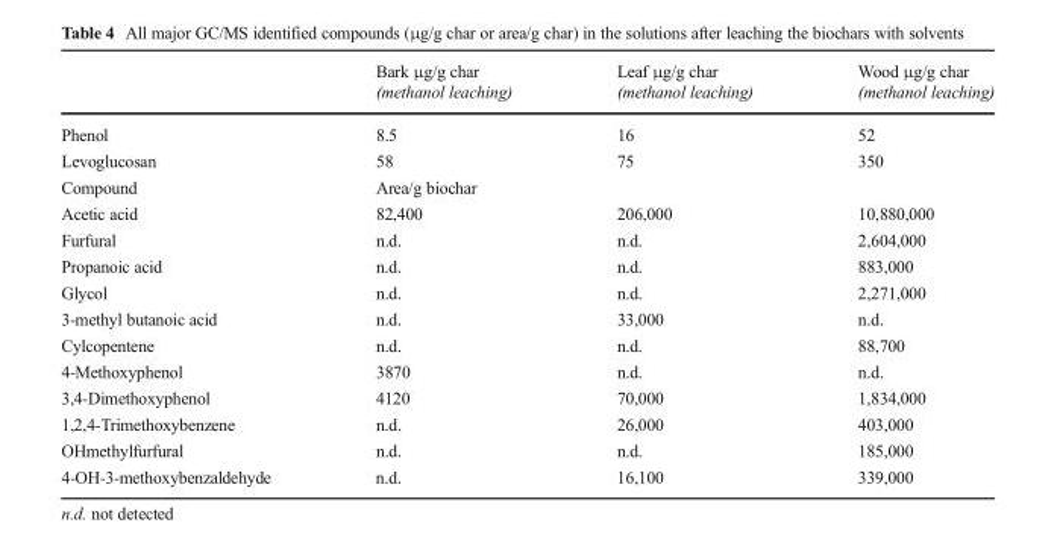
<table><thead><tr><td></td><td>Bark μg/g char (methanol leaching)</td><td>Leaf μg/g char (methanol leaching)</td><td>Wood μg/g char (methanol leaching)</td></tr></thead><tbody><tr><td>Phenol</td><td>8.5</td><td>16</td><td>52</td></tr><tr><td>Levoglucosan</td><td>58</td><td>75</td><td>350</td></tr><tr><td>Compound</td><td colspan="3">Area/g biochar</td></tr><tr><td>Acetic acid</td><td>82,400</td><td>206,000</td><td>10,880,000</td></tr><tr><td>Furfural</td><td>n.d.</td><td>n.d.</td><td>2,604,000</td></tr><tr><td>Propanoic acid</td><td>n.d.</td><td>n.d.</td><td>883,000</td></tr><tr><td>Glycol</td><td>n.d.</td><td>n.d.</td><td>2,271,000</td></tr><tr><td>3-methyl butanoic acid</td><td>n.d.</td><td>33,000</td><td>n.d.</td></tr><tr><td>Cylcopentene</td><td>n.d.</td><td>n.d.</td><td>88,700</td></tr><tr><td>4-Methoxyphenol</td><td>3870</td><td>n.d.</td><td>n.d.</td></tr><tr><td>3,4-Dimethoxyphenol</td><td>4120</td><td>70,000</td><td>1,834,000</td></tr><tr><td>1,2,4-Trimethoxybenzene</td><td>n.d.</td><td>26,000</td><td>403,000</td></tr><tr><td>OHmethylfurfural</td><td>n.d.</td><td>n.d.</td><td>185,000</td></tr><tr><td>4-OH-3-methoxybenzaldehyde</td><td>n.d.</td><td>16,100</td><td>339,000</td></tr></tbody></table>